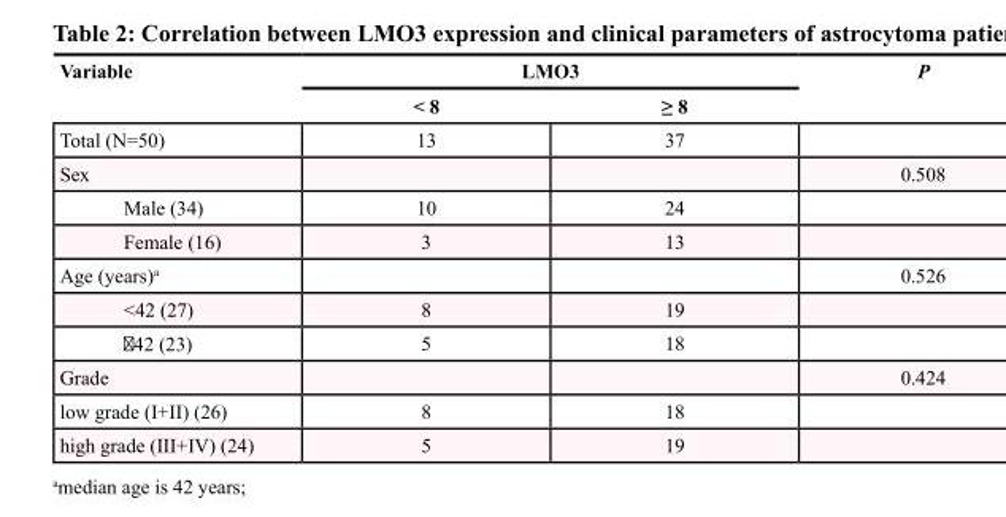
<table><thead><tr><td rowspan="2">Variable</td><td colspan="2">LMO3</td><td rowspan="2">P</td></tr><tr><td>&lt; 8</td><td>≥ 8</td></tr></thead><tbody><tr><td>Total (N=50)</td><td>13</td><td>37</td><td></td></tr><tr><td>Sex</td><td></td><td></td><td>0.508</td></tr><tr><td>Male (34)</td><td>10</td><td>24</td><td></td></tr><tr><td>Female (16)</td><td>3</td><td>13</td><td></td></tr><tr><td>Age (years)<sup>a</sup></td><td></td><td></td><td>0.526</td></tr><tr><td>&lt;42 (27)</td><td>8</td><td>19</td><td></td></tr><tr><td>≧42 (23)</td><td>5</td><td>18</td><td></td></tr><tr><td>Grade</td><td></td><td></td><td>0.424</td></tr><tr><td>low grade (I+II) (26)</td><td>8</td><td>18</td><td></td></tr><tr><td>high grade (III+IV) (24)</td><td>5</td><td>19</td><td></td></tr></tbody></table>